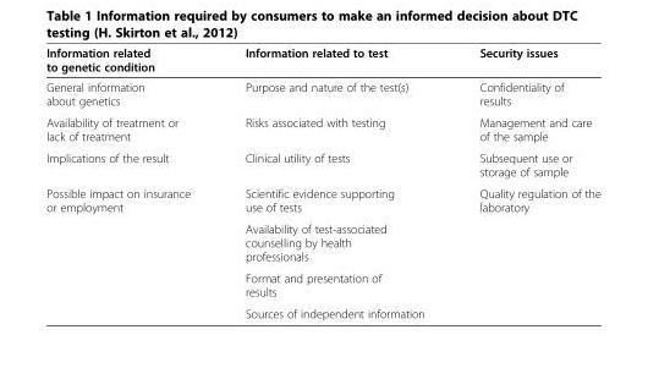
<table><thead><tr><td>Information related to genetic condition</td><td>Information related to test</td><td>Security issues</td></tr></thead><tbody><tr><td>General information about genetics</td><td>Purpose and nature of the test(s)</td><td>Confidentiality of results</td></tr><tr><td>Availability of treatment or lack of treatment</td><td>Risks associated with testing</td><td>Management and care of the sample</td></tr><tr><td>Implications of the result</td><td>Clinical utility of tests</td><td>Subsequent use or storage of sample</td></tr><tr><td rowspan="4">Possible impact on insurance or employment</td><td>Scientific evidence supporting use of tests</td><td>Quality regulation of the laboratory</td></tr><tr><td>Availability of test-associated counselling by health professionals</td><td></td></tr><tr><td>Format and presentation of results</td><td></td></tr><tr><td>Sources of independent information</td><td></td></tr></tbody></table>